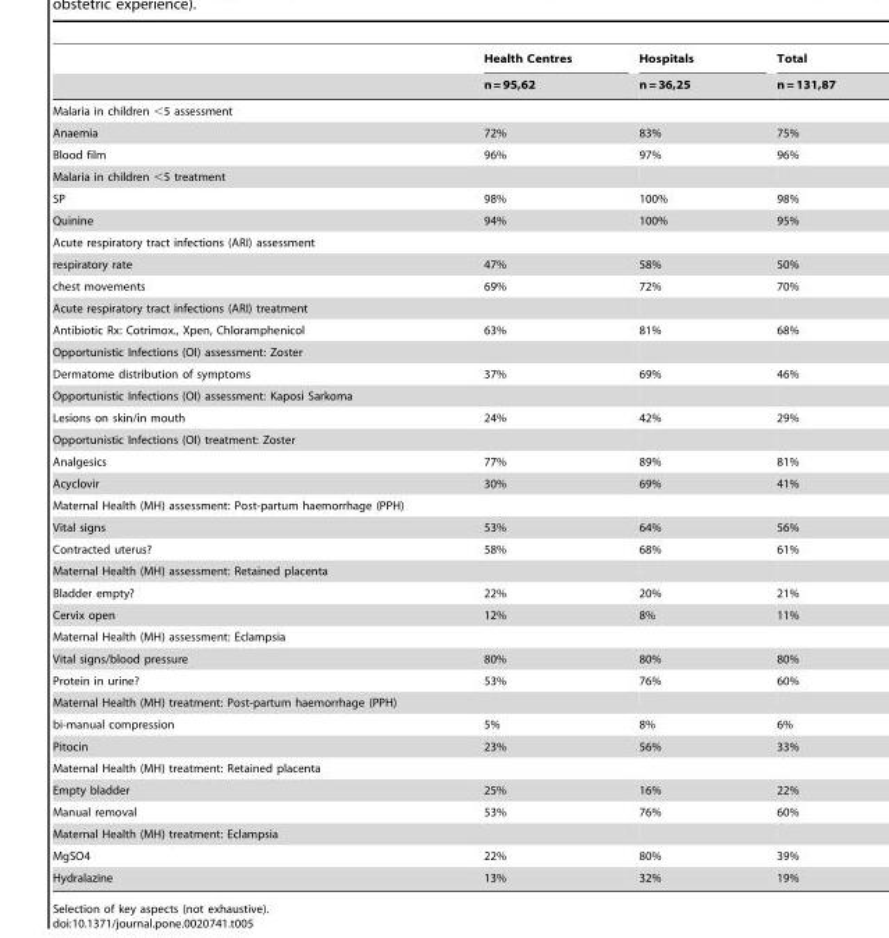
<table><thead><tr><td rowspan="2"></td><td rowspan="2">Health Centres n = 95,62</td><td rowspan="2">Hospitals n = 36,25</td><td rowspan="2">Total n = 131,87</td></tr><tr></tr></thead><tbody><tr><td colspan="4">Malaria in children &lt;5 assessment</td></tr><tr><td>Anaemia</td><td>72%</td><td>83%</td><td>75%</td></tr><tr><td>Blood film</td><td>96%</td><td>97%</td><td>96%</td></tr><tr><td colspan="4">Malaria in children &lt;5 treatment</td></tr><tr><td>SP</td><td>98%</td><td>100%</td><td>98%</td></tr><tr><td>Quinine</td><td>94%</td><td>100%</td><td>95%</td></tr><tr><td colspan="4">Acute respiratory tract infections (ARI) assessment</td></tr><tr><td>respiratory rate</td><td>47%</td><td>58%</td><td>50%</td></tr><tr><td>chest movements</td><td>69%</td><td>72%</td><td>70%</td></tr><tr><td colspan="4">Acute respiratory tract infections (ARI) treatment</td></tr><tr><td>Antibiotic Rx: Cotrimox., Xpen, Chloramphenicol</td><td>63%</td><td>81%</td><td>68%</td></tr><tr><td colspan="4">Opportunistic Infections (OI) assessment: Zoster</td></tr><tr><td>Dermatome distribution of symptoms</td><td>37%</td><td>69%</td><td>46%</td></tr><tr><td colspan="4">Opportunistic Infections (OI) assessment: Kaposi Sarkoma</td></tr><tr><td>Lesions on skin/in mouth</td><td>24%</td><td>42%</td><td>29%</td></tr><tr><td colspan="4">Opportunistic Infections (OI) treatment: Zoster</td></tr><tr><td>Analgesics</td><td>77%</td><td>89%</td><td>81%</td></tr><tr><td>Acyclovir</td><td>30%</td><td>69%</td><td>41%</td></tr><tr><td colspan="4">Maternal Health (MH) assessment: Post-partum haemorrhage (PPH)</td></tr><tr><td>Vital signs</td><td>53%</td><td>64%</td><td>56%</td></tr><tr><td>Contracted uterus?</td><td>58%</td><td>68%</td><td>61%</td></tr><tr><td colspan="4">Maternal Health (MH) assessment: Retained placenta</td></tr><tr><td>Bladder empty?</td><td>22%</td><td>20%</td><td>21%</td></tr><tr><td>Cervix open</td><td>12%</td><td>8%</td><td>11%</td></tr><tr><td colspan="4">Maternal Health (MH) assessment: Eclampsia</td></tr><tr><td>Vital signs/blood pressure</td><td>80%</td><td>80%</td><td>80%</td></tr><tr><td>Protein in urine?</td><td>53%</td><td>76%</td><td>60%</td></tr><tr><td colspan="4">Maternal Health (MH) treatment: Post-partum haemorrhage (PPH)</td></tr><tr><td>bi-manual compression</td><td>5%</td><td>8%</td><td>6%</td></tr><tr><td>Pitocin</td><td>23%</td><td>56%</td><td>33%</td></tr><tr><td colspan="4">Maternal Health (MH) treatment: Retained placenta</td></tr><tr><td>Empty bladder</td><td>25%</td><td>16%</td><td>22%</td></tr><tr><td>Manual removal</td><td>53%</td><td>76%</td><td>60%</td></tr><tr><td colspan="4">Maternal Health (MH) treatment: Eclampsia</td></tr><tr><td>MgSO4</td><td>22%</td><td>80%</td><td>39%</td></tr><tr><td>Hydralazine</td><td>13%</td><td>32%</td><td>19%</td></tr></tbody></table>